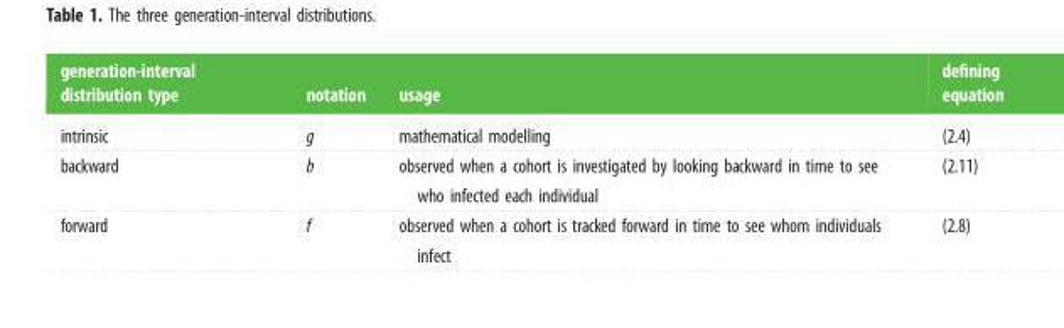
<table><thead><tr><td>generation-interval distribution type</td><td>notation</td><td>usage</td><td>defining equation</td></tr></thead><tbody><tr><td>intrinsic</td><td>g</td><td>mathematical modelling</td><td>(2.4)</td></tr><tr><td>backward</td><td>b</td><td>observed when a cohort is investigated by looking backward in time to see who infected each individual</td><td>(2.11)</td></tr><tr><td>forward</td><td>f</td><td>observed when a cohort is tracked forward in time to see whom individuals infect</td><td>(2.8)</td></tr></tbody></table>